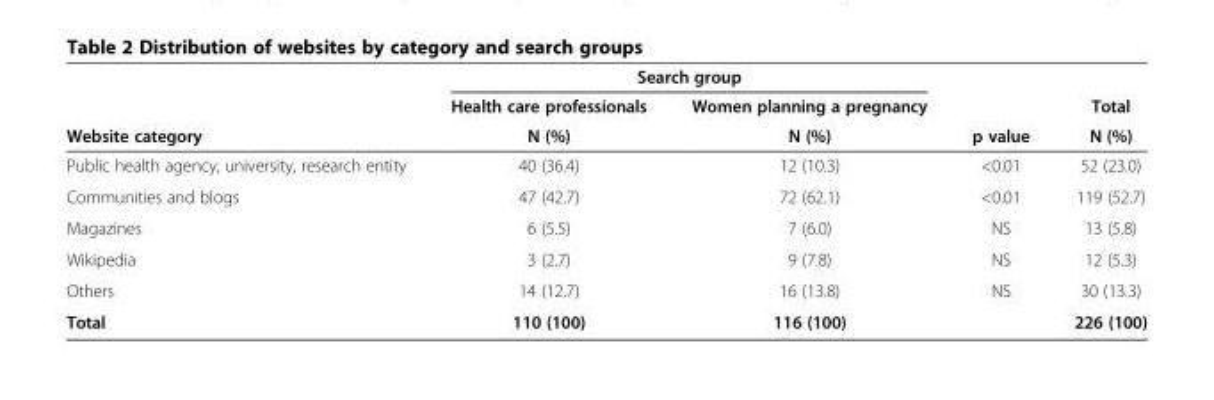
<table><thead><tr><td rowspan="3">Website category</td><td colspan="2">Search group</td><td rowspan="3">p value</td><td rowspan="3">Total N (%)</td></tr><tr><td rowspan="2">Health care professionals N (%)</td><td rowspan="2">Women planning a pregnancy N (%)</td></tr><tr></tr></thead><tbody><tr><td>Public health agency, university, research entity</td><td>40 (36.4)</td><td>12 (10.3)</td><td>&lt;0.01</td><td>52 (23.0)</td></tr><tr><td>Communities and blogs</td><td>47 (42.7)</td><td>72 (62.1)</td><td>&lt;0.01</td><td>119 (52.7)</td></tr><tr><td>Magazines</td><td>6 (5.5)</td><td>7 (6.0)</td><td>NS</td><td>13 (5.8)</td></tr><tr><td>Wikipedia</td><td>3 (2.7)</td><td>9 (7.8)</td><td>NS</td><td>12 (5.3)</td></tr><tr><td>Others</td><td>14 (12.7)</td><td>16 (13.8)</td><td>NS</td><td>30 (13.3)</td></tr><tr><td>Total</td><td>110 (100)</td><td>116 (100)</td><td></td><td>226 (100)</td></tr></tbody></table>